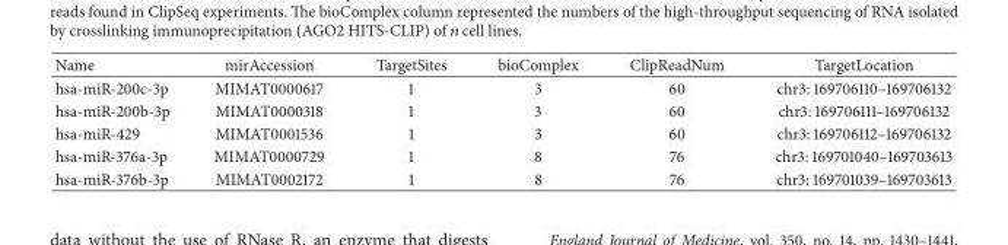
<table><thead><tr><td>Name</td><td>mirAccession</td><td>TargetSites</td><td>bioComplex</td><td>ClipReadNum</td><td>TargetLocation</td></tr></thead><tbody><tr><td>hsa-miR-200c-3p</td><td>MIMAT0000617</td><td>1</td><td>3</td><td>60</td><td>chr3: 169706110–169706132</td></tr><tr><td>hsa-miR-200b-3p</td><td>MIMAT0000318</td><td>1</td><td>3</td><td>60</td><td>chr3: 169706111–169706132</td></tr><tr><td>hsa-miR-429</td><td>MIMAT0001536</td><td>1</td><td>3</td><td>60</td><td>chr3: 169706112–169706132</td></tr><tr><td>hsa-miR-376a-3p</td><td>MIMAT0000729</td><td>1</td><td>8</td><td>76</td><td>chr3: 169701040–169703613</td></tr><tr><td>hsa-miR-376b-3p</td><td>MIMAT0002172</td><td>1</td><td>8</td><td>76</td><td>chr3: 169701039–169703613</td></tr></tbody></table>